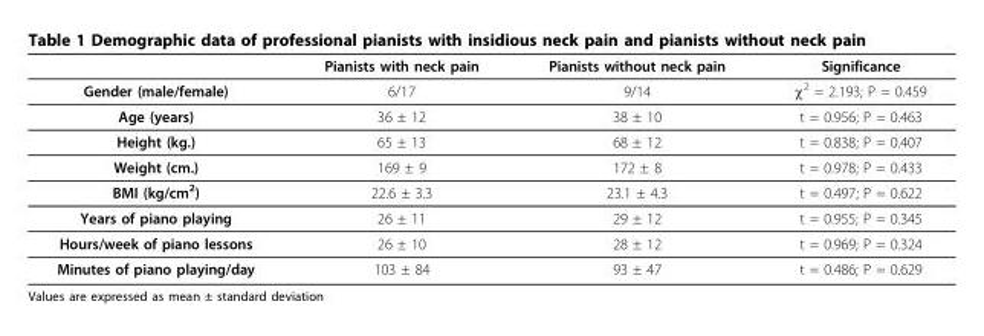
<table><thead><tr><td></td><td>Pianists with neck pain</td><td>Pianists without neck pain</td><td>Significance</td></tr></thead><tbody><tr><td>Gender (male/female)</td><td>6/17</td><td>9/14</td><td>χ<sup>2</sup> = 2.193; P = 0.459</td></tr><tr><td>Age (years)</td><td>36 ± 12</td><td>38 ± 10</td><td>t = 0.956; P = 0.463</td></tr><tr><td>Height (kg.)</td><td>65 ± 13</td><td>68 ± 12</td><td>t = 0.838; P = 0.407</td></tr><tr><td>Weight (cm.)</td><td>169 ± 9</td><td>172 ± 8</td><td>t = 0.978; P = 0.433</td></tr><tr><td>BMI (kg/cm<sup>2</sup>)</td><td>22.6 ± 3.3</td><td>23.1 ± 4.3</td><td>t = 0.497; P = 0.622</td></tr><tr><td>Years of piano playing</td><td>26 ± 11</td><td>29 ± 12</td><td>t = 0.955; P = 0.345</td></tr><tr><td>Hours/week of piano lessons</td><td>26 ± 10</td><td>28 ± 12</td><td>t = 0.969; P = 0.324</td></tr><tr><td>Minutes of piano playing/day</td><td>103 ± 84</td><td>93 ± 47</td><td>t = 0.486; P = 0.629</td></tr></tbody></table>